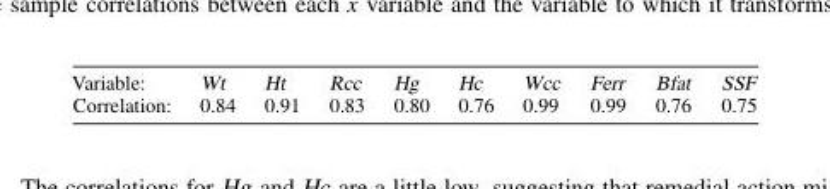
<table><tbody><tr><td>Variable:</td><td>Wt</td><td>Ht</td><td>Rcc</td><td>Hg</td><td>Hc</td><td>Wcc</td><td>Ferr</td><td>Bfat</td><td>SSF</td></tr><tr><td>Correlation:</td><td>0.84</td><td>0.91</td><td>0.83</td><td>0.80</td><td>0.76</td><td>0.99</td><td>0.99</td><td>0.76</td><td>0.75</td></tr></tbody></table>